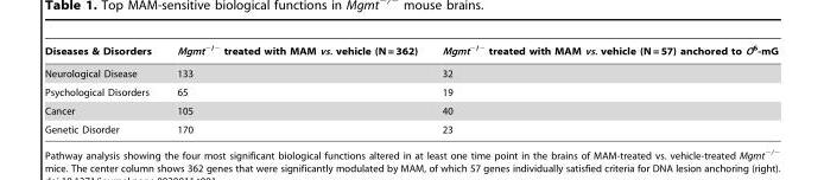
<table><thead><tr><td>Diseases &amp; Disorders</td><td>Mgmt<sup>−/−</sup> treated with MAM vs. vehicle (N = 362)</td><td>Mgmt<sup>−/−</sup> treated with MAM vs. vehicle (N = 57) anchored to O<sup>6</sup>-mG</td></tr></thead><tbody><tr><td>Neurological Disease</td><td>133</td><td>32</td></tr><tr><td>Psychological Disorders</td><td>65</td><td>19</td></tr><tr><td>Cancer</td><td>105</td><td>40</td></tr><tr><td>Genetic Disorder</td><td>170</td><td>23</td></tr></tbody></table>